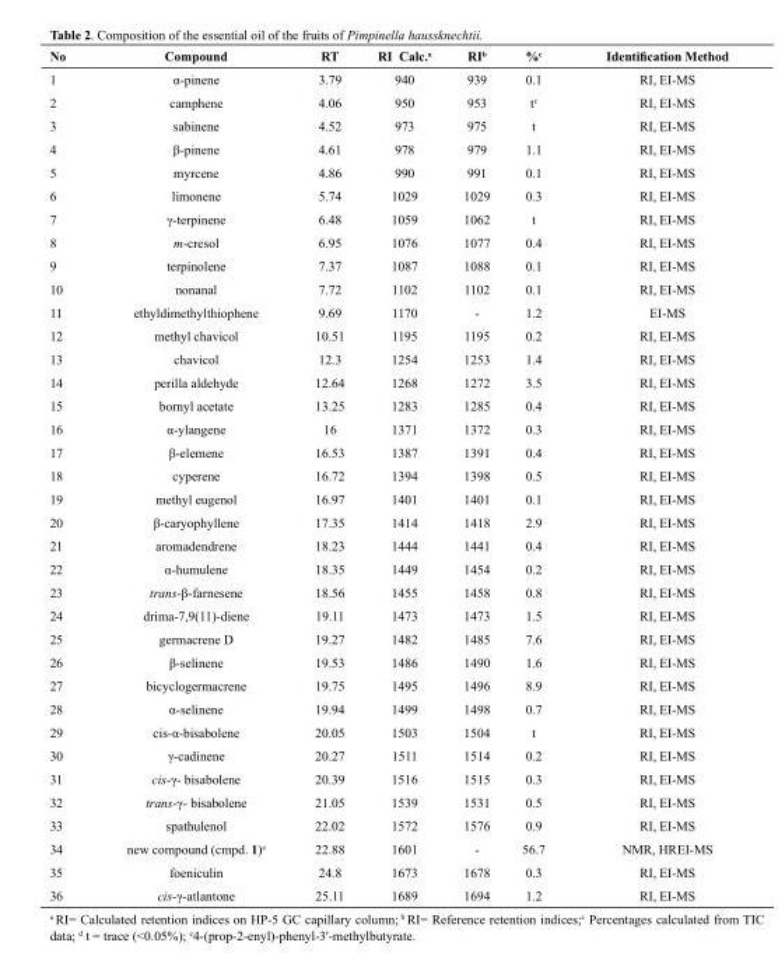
<table><thead><tr><td>No</td><td>Compound</td><td>RT</td><td>RI Calc.a</td><td>RIb</td><td>%c</td><td>Identification Method</td></tr></thead><tbody><tr><td>1</td><td>α-pinene</td><td>3.79</td><td>940</td><td>939</td><td>0.1</td><td>RI, EI-MS</td></tr><tr><td>2</td><td>camphene</td><td>4.06</td><td>950</td><td>953</td><td>t<sup>c</sup></td><td>RI, EI-MS</td></tr><tr><td>3</td><td>sabinene</td><td>4.52</td><td>973</td><td>975</td><td>t</td><td>RI, EI-MS</td></tr><tr><td>4</td><td>β-pinene</td><td>4.61</td><td>978</td><td>979</td><td>1.1</td><td>RI, EI-MS</td></tr><tr><td>5</td><td>myrcene</td><td>4.86</td><td>990</td><td>991</td><td>0.1</td><td>RI, EI-MS</td></tr><tr><td>6</td><td>limonene</td><td>5.74</td><td>1029</td><td>1029</td><td>0.3</td><td>RI, EI-MS</td></tr><tr><td>7</td><td>γ-terpinene</td><td>6.48</td><td>1059</td><td>1062</td><td>t</td><td>RI, EI-MS</td></tr><tr><td>8</td><td>m-cresol</td><td>6.95</td><td>1076</td><td>1077</td><td>0.4</td><td>RI, EI-MS</td></tr><tr><td>9</td><td>terpinolene</td><td>7.37</td><td>1087</td><td>1088</td><td>0.1</td><td>RI, EI-MS</td></tr><tr><td>10</td><td>nonanal</td><td>7.72</td><td>1102</td><td>1102</td><td>0.1</td><td>RI, EI-MS</td></tr><tr><td>11</td><td>ethyldimethylthiophene</td><td>9.69</td><td>1170</td><td>-</td><td>1.2</td><td>EI-MS</td></tr><tr><td>12</td><td>methyl chavicol</td><td>10.51</td><td>1195</td><td>1195</td><td>0.2</td><td>RI, EI-MS</td></tr><tr><td>13</td><td>chavicol</td><td>12.3</td><td>1254</td><td>1253</td><td>1.4</td><td>RI, EI-MS</td></tr><tr><td>14</td><td>perilla aldehyde</td><td>12.64</td><td>1268</td><td>1272</td><td>3.5</td><td>RI, EI-MS</td></tr><tr><td>15</td><td>bornyl acetate</td><td>13.25</td><td>1283</td><td>1285</td><td>0.4</td><td>RI, EI-MS</td></tr><tr><td>16</td><td>α-ylangene</td><td>16</td><td>1371</td><td>1372</td><td>0.3</td><td>RI, EI-MS</td></tr><tr><td>17</td><td>β-elemene</td><td>16.53</td><td>1387</td><td>1391</td><td>0.4</td><td>RI, EI-MS</td></tr><tr><td>18</td><td>cyperene</td><td>16.72</td><td>1394</td><td>1398</td><td>0.5</td><td>RI, EI-MS</td></tr><tr><td>19</td><td>methyl eugenol</td><td>16.97</td><td>1401</td><td>1401</td><td>0.1</td><td>RI, EI-MS</td></tr><tr><td>20</td><td>β-caryophyllene</td><td>17.35</td><td>1414</td><td>1418</td><td>2.9</td><td>RI, EI-MS</td></tr><tr><td>21</td><td>aromadendrene</td><td>18.23</td><td>1444</td><td>1441</td><td>0.4</td><td>RI, EI-MS</td></tr><tr><td>22</td><td>α-humulene</td><td>18.35</td><td>1449</td><td>1454</td><td>0.2</td><td>RI, EI-MS</td></tr><tr><td>23</td><td>trans-β-farnesene</td><td>18.56</td><td>1455</td><td>1458</td><td>0.8</td><td>RI, EI-MS</td></tr><tr><td>24</td><td>drima-7,9(11)-diene</td><td>19.11</td><td>1473</td><td>1473</td><td>1.5</td><td>RI, EI-MS</td></tr><tr><td>25</td><td>germacrene D</td><td>19.27</td><td>1482</td><td>1485</td><td>7.6</td><td>RI, EI-MS</td></tr><tr><td>26</td><td>β-selinene</td><td>19.53</td><td>1486</td><td>1490</td><td>1.6</td><td>RI, EI-MS</td></tr><tr><td>27</td><td>bicyclogermacrene</td><td>19.75</td><td>1495</td><td>1496</td><td>8.9</td><td>RI, EI-MS</td></tr><tr><td>28</td><td>α-selinene</td><td>19.94</td><td>1499</td><td>1498</td><td>0.7</td><td>RI, EI-MS</td></tr><tr><td>29</td><td>cis-α-bisabolene</td><td>20.05</td><td>1503</td><td>1504</td><td>t</td><td>RI, EI-MS</td></tr><tr><td>30</td><td>γ-cadinene</td><td>20.27</td><td>1511</td><td>1514</td><td>0.2</td><td>RI, EI-MS</td></tr><tr><td>31</td><td>cis-γ- bisabolene</td><td>20.39</td><td>1516</td><td>1515</td><td>0.3</td><td>RI, EI-MS</td></tr><tr><td>32</td><td>trans-γ- bisabolene</td><td>21.05</td><td>1539</td><td>1531</td><td>0.5</td><td>RI, EI-MS</td></tr><tr><td>33</td><td>spathulenol</td><td>22.02</td><td>1572</td><td>1576</td><td>0.9</td><td>RI, EI-MS</td></tr><tr><td>34</td><td>new compound (cmpd. 1)<sup>e</sup></td><td>22.88</td><td>1601</td><td>-</td><td>56.7</td><td>NMR, HREI-MS</td></tr><tr><td>35</td><td>foeniculin</td><td>24.8</td><td>1673</td><td>1678</td><td>0.3</td><td>RI, EI-MS</td></tr><tr><td>36</td><td>cis-γ-atlantone</td><td>25.11</td><td>1689</td><td>1694</td><td>1.2</td><td>RI, EI-MS</td></tr></tbody></table>